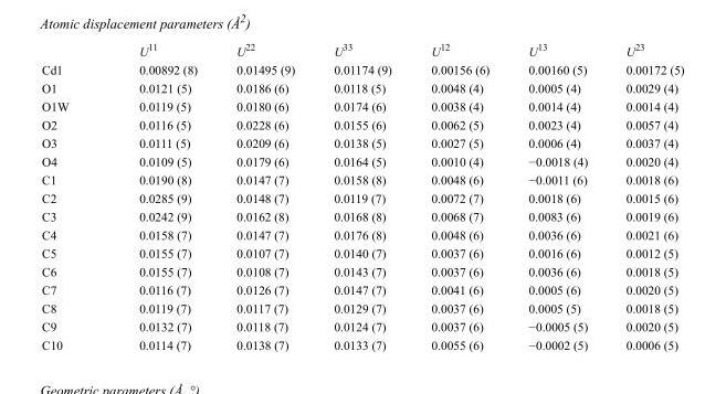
<table><thead><tr><td></td><td>U<sup>11</sup></td><td>U<sup>22</sup></td><td>U<sup>33</sup></td><td>U<sup>12</sup></td><td>U<sup>13</sup></td><td>U<sup>23</sup></td></tr></thead><tbody><tr><td>Cd1</td><td>0.00892 (8)</td><td>0.01495 (9)</td><td>0.01174 (9)</td><td>0.00156 (6)</td><td>0.00160 (5)</td><td>0.00172 (5)</td></tr><tr><td>O1</td><td>0.0121 (5)</td><td>0.0186 (6)</td><td>0.0118 (5)</td><td>0.0048 (4)</td><td>0.0005 (4)</td><td>0.0029 (4)</td></tr><tr><td>O1W</td><td>0.0119 (5)</td><td>0.0180 (6)</td><td>0.0174 (6)</td><td>0.0038 (4)</td><td>0.0014 (4)</td><td>0.0014 (4)</td></tr><tr><td>O2</td><td>0.0116 (5)</td><td>0.0228 (6)</td><td>0.0155 (6)</td><td>0.0062 (5)</td><td>0.0023 (4)</td><td>0.0057 (4)</td></tr><tr><td>O3</td><td>0.0111 (5)</td><td>0.0209 (6)</td><td>0.0138 (5)</td><td>0.0027 (5)</td><td>0.0006 (4)</td><td>0.0037 (4)</td></tr><tr><td>O4</td><td>0.0109 (5)</td><td>0.0179 (6)</td><td>0.0164 (5)</td><td>0.0010 (4)</td><td>−0.0018 (4)</td><td>0.0020 (4)</td></tr><tr><td>C1</td><td>0.0190 (8)</td><td>0.0147 (7)</td><td>0.0158 (8)</td><td>0.0048 (6)</td><td>−0.0011 (6)</td><td>0.0018 (6)</td></tr><tr><td>C2</td><td>0.0285 (9)</td><td>0.0148 (7)</td><td>0.0119 (7)</td><td>0.0072 (7)</td><td>0.0018 (6)</td><td>0.0015 (6)</td></tr><tr><td>C3</td><td>0.0242 (9)</td><td>0.0162 (8)</td><td>0.0168 (8)</td><td>0.0068 (7)</td><td>0.0083 (6)</td><td>0.0019 (6)</td></tr><tr><td>C4</td><td>0.0158 (7)</td><td>0.0147 (7)</td><td>0.0176 (8)</td><td>0.0048 (6)</td><td>0.0036 (6)</td><td>0.0021 (6)</td></tr><tr><td>C5</td><td>0.0155 (7)</td><td>0.0107 (7)</td><td>0.0140 (7)</td><td>0.0037 (6)</td><td>0.0016 (6)</td><td>0.0012 (5)</td></tr><tr><td>C6</td><td>0.0155 (7)</td><td>0.0108 (7)</td><td>0.0143 (7)</td><td>0.0037 (6)</td><td>0.0036 (6)</td><td>0.0018 (5)</td></tr><tr><td>C7</td><td>0.0116 (7)</td><td>0.0126 (7)</td><td>0.0147 (7)</td><td>0.0041 (6)</td><td>0.0005 (6)</td><td>0.0020 (5)</td></tr><tr><td>C8</td><td>0.0119 (7)</td><td>0.0117 (7)</td><td>0.0129 (7)</td><td>0.0037 (6)</td><td>0.0005 (5)</td><td>0.0018 (5)</td></tr><tr><td>C9</td><td>0.0132 (7)</td><td>0.0118 (7)</td><td>0.0124 (7)</td><td>0.0037 (6)</td><td>−0.0005 (5)</td><td>0.0020 (5)</td></tr><tr><td>C10</td><td>0.0114 (7)</td><td>0.0138 (7)</td><td>0.0133 (7)</td><td>0.0055 (6)</td><td>−0.0002 (5)</td><td>0.0006 (5)</td></tr></tbody></table>